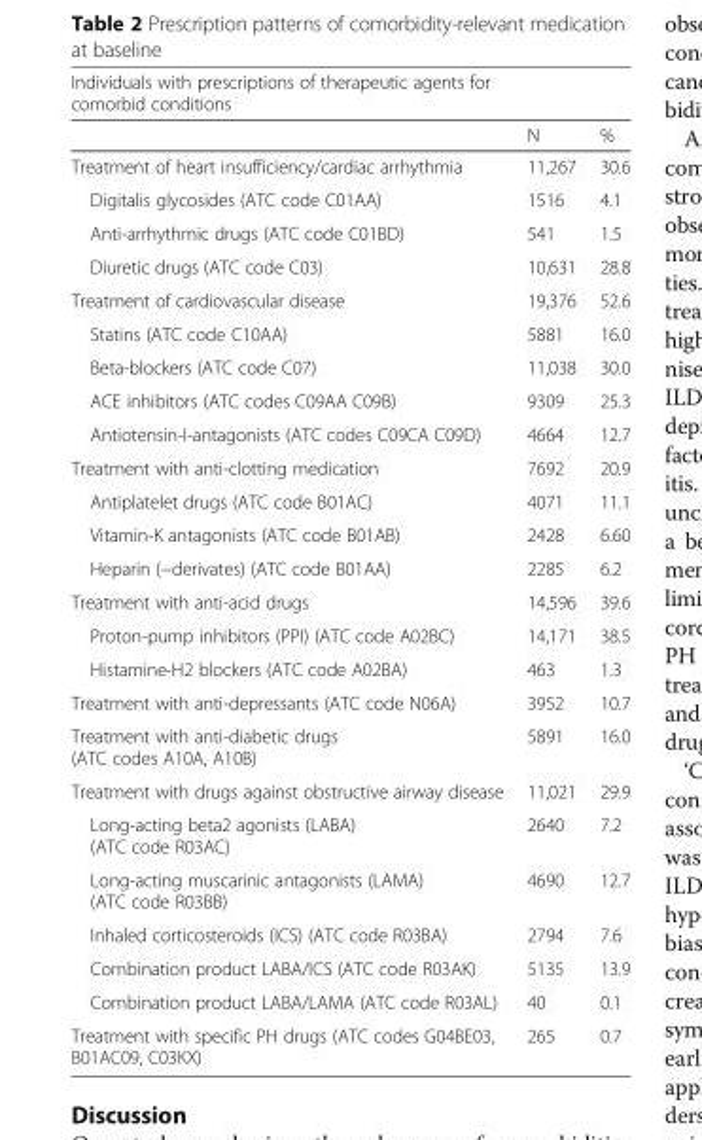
<table><thead><tr><td colspan="3">Individuals with prescriptions of therapeutic agents for comorbid conditions</td></tr><tr><td></td><td>N</td><td>%</td></tr></thead><tbody><tr><td>Treatment of heart insufficiency/cardiac arrhythmia</td><td>11,267</td><td>30.6</td></tr><tr><td>Digitalis glycosides (ATC code C01AA)</td><td>1516</td><td>4.1</td></tr><tr><td>Anti-arrhythmic drugs (ATC code C01BD)</td><td>541</td><td>1.5</td></tr><tr><td>Diuretic drugs (ATC code C03)</td><td>10,631</td><td>28.8</td></tr><tr><td>Treatment of cardiovascular disease</td><td>19,376</td><td>52.6</td></tr><tr><td>Statins (ATC code C10AA)</td><td>5881</td><td>16.0</td></tr><tr><td>Beta-blockers (ATC code C07)</td><td>11,038</td><td>30.0</td></tr><tr><td>ACE inhibitors (ATC codes C09AA C09B)</td><td>9309</td><td>25.3</td></tr><tr><td>Antiotensin-I-antagonists (ATC codes C09CA C09D)</td><td>4664</td><td>12.7</td></tr><tr><td>Treatment with anti-clotting medication</td><td>7692</td><td>20.9</td></tr><tr><td>Antiplatelet drugs (ATC code B01AC)</td><td>4071</td><td>11.1</td></tr><tr><td>Vitamin-K antagonists (ATC code B01AB)</td><td>2428</td><td>6.60</td></tr><tr><td>Heparin (−derivates) (ATC code B01AA)</td><td>2285</td><td>6.2</td></tr><tr><td>Treatment with anti-acid drugs</td><td>14,596</td><td>39.6</td></tr><tr><td>Proton-pump inhibitors (PPI) (ATC code A02BC)</td><td>14,171</td><td>38.5</td></tr><tr><td>Histamine-H2 blockers (ATC code A02BA)</td><td>463</td><td>1.3</td></tr><tr><td>Treatment with anti-depressants (ATC code N06A)</td><td>3952</td><td>10.7</td></tr><tr><td>Treatment with anti-diabetic drugs (ATC codes A10A, A10B)</td><td>5891</td><td>16.0</td></tr><tr><td>Treatment with drugs against obstructive airway disease</td><td>11,021</td><td>29.9</td></tr><tr><td>Long-acting beta2 agonists (LABA) (ATC code R03AC)</td><td>2640</td><td>7.2</td></tr><tr><td>Long-acting muscarinic antagonists (LAMA) (ATC code R03BB)</td><td>4690</td><td>12.7</td></tr><tr><td>Inhaled corticosteroids (ICS) (ATC code R03BA)</td><td>2794</td><td>7.6</td></tr><tr><td>Combination product LABA/ICS (ATC code R03AK)</td><td>5135</td><td>13.9</td></tr><tr><td>Combination product LABA/LAMA (ATC code R03AL)</td><td>40</td><td>0.1</td></tr><tr><td>Treatment with specific PH drugs (ATC codes G04BE03, B01AC09, C03KX)</td><td>265</td><td>0.7</td></tr></tbody></table>